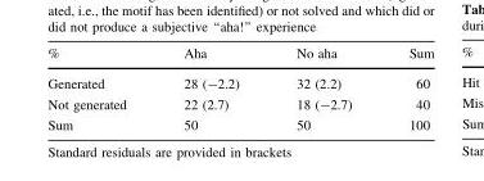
<table><thead><tr><td>%</td><td>Aha</td><td>No aha</td><td>Sum</td></tr></thead><tbody><tr><td>Generated</td><td>28 (-2.2)</td><td>32 (2.2)</td><td>60</td></tr><tr><td>Not generated</td><td>22 (2.7)</td><td>18 (-2.7)</td><td>40</td></tr><tr><td>Sum</td><td>50</td><td>50</td><td>100</td></tr></tbody></table>